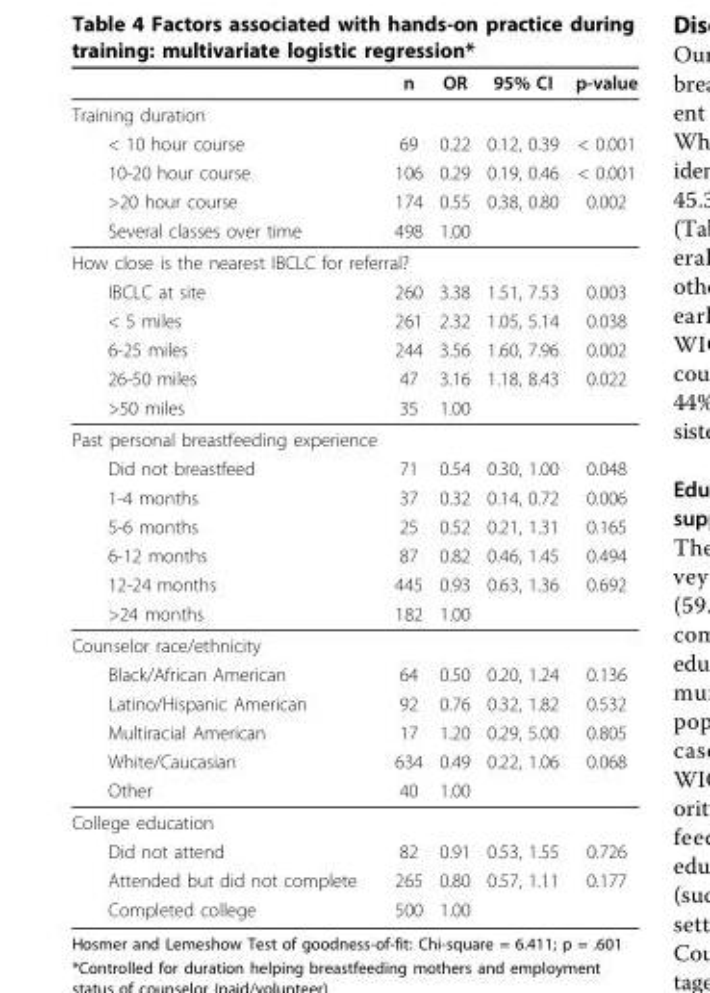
<table><thead><tr><td></td><td>n</td><td>OR</td><td>95% CI</td><td>p-value</td></tr></thead><tbody><tr><td colspan="5">Training duration</td></tr><tr><td>&lt; 10 hour course</td><td>69</td><td>0.22</td><td>0.12, 0.39</td><td>&lt; 0.001</td></tr><tr><td>10-20 hour course</td><td>106</td><td>0.29</td><td>0.19, 0.46</td><td>&lt; 0.001</td></tr><tr><td>&gt;20 hour course</td><td>174</td><td>0.55</td><td>0.38, 0.80</td><td>0.002</td></tr><tr><td>Several classes over time</td><td>498</td><td>1.00</td><td></td><td></td></tr><tr><td colspan="5">How close is the nearest IBCLC for referral?</td></tr><tr><td>IBCLC at site</td><td>260</td><td>3.38</td><td>1.51, 7.53</td><td>0.003</td></tr><tr><td>&lt; 5 miles</td><td>261</td><td>2.32</td><td>1.05, 5.14</td><td>0.038</td></tr><tr><td>6-25 miles</td><td>244</td><td>3.56</td><td>1.60, 7.96</td><td>0.002</td></tr><tr><td>26-50 miles</td><td>47</td><td>3.16</td><td>1.18, 8.43</td><td>0.022</td></tr><tr><td>&gt;50 miles</td><td>35</td><td>1.00</td><td></td><td></td></tr><tr><td colspan="5">Past personal breastfeeding experience</td></tr><tr><td>Did not breastfeed</td><td>71</td><td>0.54</td><td>0.30, 1.00</td><td>0.048</td></tr><tr><td>1-4 months</td><td>37</td><td>0.32</td><td>0.14, 0.72</td><td>0.006</td></tr><tr><td>5-6 months</td><td>25</td><td>0.52</td><td>0.21, 1.31</td><td>0.165</td></tr><tr><td>6-12 months</td><td>87</td><td>0.82</td><td>0.46, 1.45</td><td>0.494</td></tr><tr><td>12-24 months</td><td>445</td><td>0.93</td><td>0.63, 1.36</td><td>0.692</td></tr><tr><td>&gt;24 months</td><td>182</td><td>1.00</td><td></td><td></td></tr><tr><td colspan="5">Counselor race/ethnicity</td></tr><tr><td>Black/African American</td><td>64</td><td>0.50</td><td>0.20, 1.24</td><td>0.136</td></tr><tr><td>Latino/Hispanic American</td><td>92</td><td>0.76</td><td>0.32, 1.82</td><td>0.532</td></tr><tr><td>Multiracial American</td><td>17</td><td>1.20</td><td>0.29, 5.00</td><td>0.805</td></tr><tr><td>White/Caucasian</td><td>634</td><td>0.49</td><td>0.22, 1.06</td><td>0.068</td></tr><tr><td>Other</td><td>40</td><td>1.00</td><td></td><td></td></tr><tr><td colspan="5">College education</td></tr><tr><td>Did not attend</td><td>82</td><td>0.91</td><td>0.53, 1.55</td><td>0.726</td></tr><tr><td>Attended but did not complete</td><td>265</td><td>0.80</td><td>0.57, 1.11</td><td>0.177</td></tr><tr><td>Completed college</td><td>500</td><td>1.00</td><td></td><td></td></tr></tbody></table>